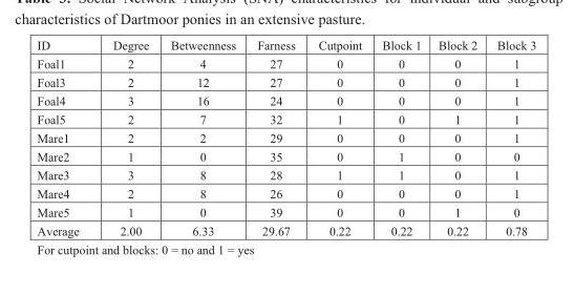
<table><tbody><tr><td>ID</td><td>Degree</td><td>Betweenness</td><td>Farness</td><td>Cutpoint</td><td>Block 1</td><td>Block 2</td><td>Block 3</td></tr><tr><td>Foal1</td><td>2</td><td>4</td><td>27</td><td>0</td><td>0</td><td>0</td><td>1</td></tr><tr><td>Foal3</td><td>2</td><td>12</td><td>27</td><td>0</td><td>0</td><td>0</td><td>1</td></tr><tr><td>Foal4</td><td>3</td><td>16</td><td>24</td><td>0</td><td>0</td><td>0</td><td>1</td></tr><tr><td>Foal5</td><td>2</td><td>7</td><td>32</td><td>1</td><td>0</td><td>1</td><td>1</td></tr><tr><td>Mare1</td><td>2</td><td>2</td><td>29</td><td>0</td><td>0</td><td>0</td><td>1</td></tr><tr><td>Mare2</td><td>1</td><td>0</td><td>35</td><td>0</td><td>1</td><td>0</td><td>0</td></tr><tr><td>Mare3</td><td>3</td><td>8</td><td>28</td><td>1</td><td>1</td><td>0</td><td>1</td></tr><tr><td>Mare4</td><td>2</td><td>8</td><td>26</td><td>0</td><td>0</td><td>0</td><td>1</td></tr><tr><td>Mare5</td><td>1</td><td>0</td><td>39</td><td>0</td><td>0</td><td>1</td><td>0</td></tr><tr><td>Average</td><td>2.00</td><td>6.33</td><td>29.67</td><td>0.22</td><td>0.22</td><td>0.22</td><td>0.78</td></tr><tr><td colspan="4">For cutpoint and blocks: 0 = no and 1 = yes</td><td></td><td></td><td></td><td></td></tr></tbody></table>